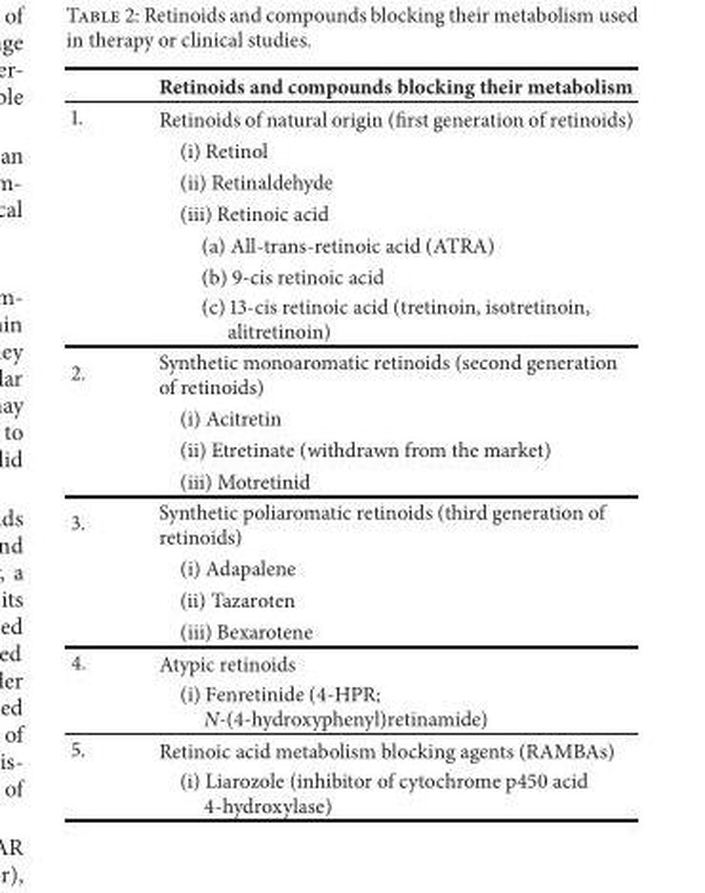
<table><thead><tr><td></td><td>Retinoids and compounds blocking their metabolism</td></tr></thead><tbody><tr><td rowspan="7">1.</td><td>Retinoids of natural origin (first generation of retinoids)</td></tr><tr><td>(i) Retinol</td></tr><tr><td>(ii) Retinaldehyde</td></tr><tr><td>(iii) Retinoic acid</td></tr><tr><td>(a) All-trans-retinoic acid (ATRA)</td></tr><tr><td>(b) 9-cis retinoic acid</td></tr><tr><td>(c) 13-cis retinoic acid (tretinoin, isotretinoin, alitretinoin)</td></tr><tr><td rowspan="4">2.</td><td>Synthetic monoaromatic retinoids (second generation of retinoids)</td></tr><tr><td>(i) Acitretin</td></tr><tr><td>(ii) Etretinate (withdrawn from the market)</td></tr><tr><td>(iii) Motretinid</td></tr><tr><td rowspan="4">3.</td><td>Synthetic poliaromatic retinoids (third generation of retinoids)</td></tr><tr><td>(i) Adapalene</td></tr><tr><td>(ii) Tazaroten</td></tr><tr><td>(iii) Bexarotene</td></tr><tr><td rowspan="2">4.</td><td>Atypic retinoids</td></tr><tr><td>(i) Fenretinide (4-HPR; N-(4-hydroxyphenyl)retinamide)</td></tr><tr><td rowspan="2">5.</td><td>Retinoic acid metabolism blocking agents (RAMBAs)</td></tr><tr><td>(i) Liarozole (inhibitor of cytochrome p450 acid 4-hydroxylase)</td></tr></tbody></table>